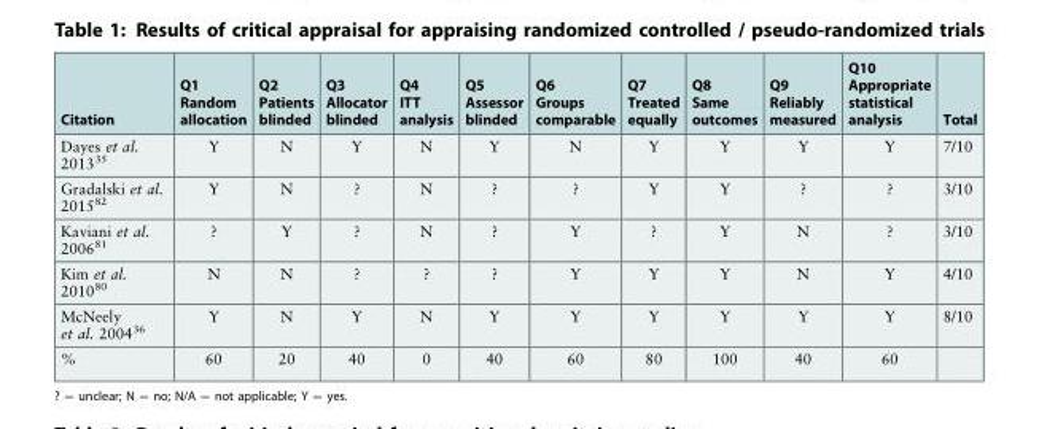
<table><thead><tr><td>Citation</td><td>Q1 Random allocation</td><td>Q2 Patients blinded</td><td>Q3 Allocator blinded</td><td>Q4 ITT analysis</td><td>Q5 Assessor blinded</td><td>Q6 Groups comparable</td><td>Q7 Treated equally</td><td>Q8 Same outcomes</td><td>Q9 Reliably measured</td><td>Q10 Appropriate statistical analysis</td><td>Total</td></tr></thead><tbody><tr><td>Dayes et al. 2013<sup>35</sup></td><td>Y</td><td>N</td><td>Y</td><td>N</td><td>Y</td><td>N</td><td>Y</td><td>Y</td><td>Y</td><td>Y</td><td>7/10</td></tr><tr><td>Gradalski et al. 2015<sup>82</sup></td><td>Y</td><td>N</td><td>?</td><td>N</td><td>?</td><td>?</td><td>Y</td><td>Y</td><td>?</td><td>?</td><td>3/10</td></tr><tr><td>Kaviani et al. 2006<sup>81</sup></td><td>?</td><td>Y</td><td>?</td><td>N</td><td>?</td><td>Y</td><td>?</td><td>Y</td><td>N</td><td>?</td><td>3/10</td></tr><tr><td>Kim et al. 2010<sup>80</sup></td><td>N</td><td>N</td><td>?</td><td>?</td><td>?</td><td>Y</td><td>Y</td><td>Y</td><td>N</td><td>Y</td><td>4/10</td></tr><tr><td>McNeely et al. 2004<sup>36</sup></td><td>Y</td><td>N</td><td>Y</td><td>N</td><td>Y</td><td>Y</td><td>Y</td><td>Y</td><td>Y</td><td>Y</td><td>8/10</td></tr><tr><td>%</td><td>60</td><td>20</td><td>40</td><td>0</td><td>40</td><td>60</td><td>80</td><td>100</td><td>40</td><td>60</td><td></td></tr></tbody></table>